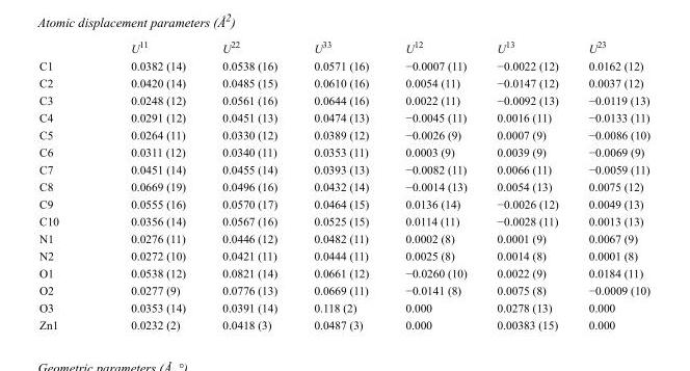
<table><thead><tr><td></td><td>U<sup>11</sup></td><td>U<sup>22</sup></td><td>U<sup>33</sup></td><td>U<sup>12</sup></td><td>U<sup>13</sup></td><td>U<sup>23</sup></td></tr></thead><tbody><tr><td>C1</td><td>0.0382 (14)</td><td>0.0538 (16)</td><td>0.0571 (16)</td><td>−0.0007 (11)</td><td>−0.0022 (12)</td><td>0.0162 (12)</td></tr><tr><td>C2</td><td>0.0420 (14)</td><td>0.0485 (15)</td><td>0.0610 (16)</td><td>0.0054 (11)</td><td>−0.0147 (12)</td><td>0.0037 (12)</td></tr><tr><td>C3</td><td>0.0248 (12)</td><td>0.0561 (16)</td><td>0.0644 (16)</td><td>0.0022 (11)</td><td>−0.0092 (13)</td><td>−0.0119 (13)</td></tr><tr><td>C4</td><td>0.0291 (12)</td><td>0.0451 (13)</td><td>0.0474 (13)</td><td>−0.0045 (11)</td><td>0.0016 (11)</td><td>−0.0133 (11)</td></tr><tr><td>C5</td><td>0.0264 (11)</td><td>0.0330 (12)</td><td>0.0389 (12)</td><td>−0.0026 (9)</td><td>0.0007 (9)</td><td>−0.0086 (10)</td></tr><tr><td>C6</td><td>0.0311 (12)</td><td>0.0340 (11)</td><td>0.0353 (11)</td><td>0.0003 (9)</td><td>0.0039 (9)</td><td>−0.0069 (9)</td></tr><tr><td>C7</td><td>0.0451 (14)</td><td>0.0455 (14)</td><td>0.0393 (13)</td><td>−0.0082 (11)</td><td>0.0066 (11)</td><td>−0.0059 (11)</td></tr><tr><td>C8</td><td>0.0669 (19)</td><td>0.0496 (16)</td><td>0.0432 (14)</td><td>−0.0014 (13)</td><td>0.0054 (13)</td><td>0.0075 (12)</td></tr><tr><td>C9</td><td>0.0555 (16)</td><td>0.0570 (17)</td><td>0.0464 (15)</td><td>0.0136 (14)</td><td>−0.0026 (12)</td><td>0.0049 (13)</td></tr><tr><td>C10</td><td>0.0356 (14)</td><td>0.0567 (16)</td><td>0.0525 (15)</td><td>0.0114 (11)</td><td>−0.0028 (11)</td><td>0.0013 (13)</td></tr><tr><td>N1</td><td>0.0276 (11)</td><td>0.0446 (12)</td><td>0.0482 (11)</td><td>0.0002 (8)</td><td>0.0001 (9)</td><td>0.0067 (9)</td></tr><tr><td>N2</td><td>0.0272 (10)</td><td>0.0421 (11)</td><td>0.0444 (11)</td><td>0.0025 (8)</td><td>0.0014 (8)</td><td>0.0001 (8)</td></tr><tr><td>O1</td><td>0.0538 (12)</td><td>0.0821 (14)</td><td>0.0661 (12)</td><td>−0.0260 (10)</td><td>0.0022 (9)</td><td>0.0184 (11)</td></tr><tr><td>O2</td><td>0.0277 (9)</td><td>0.0776 (13)</td><td>0.0669 (11)</td><td>−0.0141 (8)</td><td>0.0075 (8)</td><td>−0.0009 (10)</td></tr><tr><td>O3</td><td>0.0353 (14)</td><td>0.0391 (14)</td><td>0.118 (2)</td><td>0.000</td><td>0.0278 (13)</td><td>0.000</td></tr><tr><td>Zn1</td><td>0.0232 (2)</td><td>0.0418 (3)</td><td>0.0487 (3)</td><td>0.000</td><td>0.00383 (15)</td><td>0.000</td></tr></tbody></table>